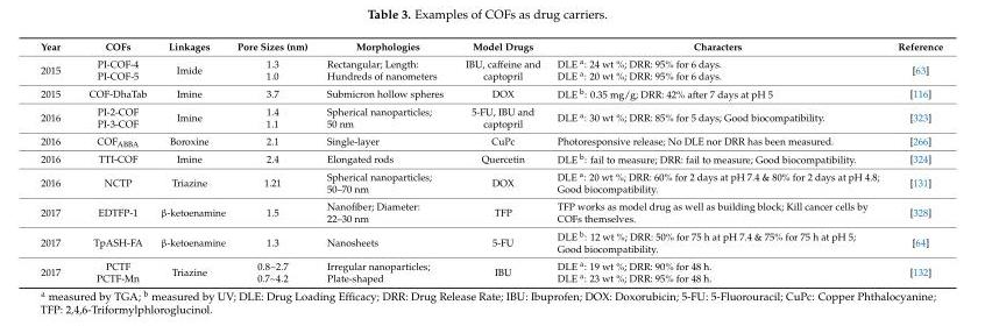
<table><thead><tr><td>Year</td><td>COFs</td><td>Linkages</td><td>Pore Sizes (nm)</td><td>Morphologies</td><td>Model Drugs</td><td>Characters</td><td>Reference</td></tr></thead><tbody><tr><td>2015</td><td>PI-COF-4 PI-COF-5</td><td>Imide</td><td>1.3 1.0</td><td>Rectangular; Length: Hundreds of nanometers</td><td>IBU, caffeine and captopril</td><td>DLE a: 24 wt %; DRR: 95% for 6 days. DLE a: 20 wt %; DRR: 95% for 6 days.</td><td>[63]</td></tr><tr><td>2015</td><td>COF-DhaTab</td><td>Imine</td><td>3.7</td><td>Submicron hollow spheres</td><td>DOX</td><td>DLE b: 0.35 mg/g; DRR: 42% after 7 days at pH 5</td><td>[116]</td></tr><tr><td>2016</td><td>PI-2-COF PI-3-COF</td><td>Imine</td><td>1.4 1.1</td><td>Spherical nanoparticles; 50 nm</td><td>5-FU, IBU and captopril</td><td>DLE a: 30 wt %; DRR: 85% for 5 days; Good biocompatibility.</td><td>[323]</td></tr><tr><td>2016</td><td>COFABBA</td><td>Boroxine</td><td>2.1</td><td>Single-layer</td><td>CuPc</td><td>Photoresponsive release; No DLE nor DRR has been measured.</td><td>[266]</td></tr><tr><td>2016</td><td>TTI-COF</td><td>Imine</td><td>2.4</td><td>Elongated rods</td><td>Quercetin</td><td>DLE b: fail to measure; DRR: fail to measure; Good biocompatibility.</td><td>[324]</td></tr><tr><td>2016</td><td>NCTP</td><td>Triazine</td><td>1.21</td><td>Spherical nanoparticles; 50–70 nm</td><td>DOX</td><td>DLE a: 20 wt %; DRR: 60% for 2 days at pH 7.4 &amp; 80% for 2 days at pH 4.8; Good biocompatibility.</td><td>[131]</td></tr><tr><td>2017</td><td>EDTFP-1</td><td>β-ketoenamine</td><td>1.5</td><td>Nanofiber; Diameter: 22–30 nm</td><td>TFP</td><td>TFP works as model drug as well as building block; Kill cancer cells by COFs themselves.</td><td>[328]</td></tr><tr><td>2017</td><td>TpASH-FA</td><td>β-ketoenamine</td><td>1.3</td><td>Nanosheets</td><td>5-FU</td><td>DLE b: 12 wt %; DRR: 50% for 75 h at pH 7.4 &amp; 75% for 75 h at pH 5; Good biocompatibility.</td><td>[64]</td></tr><tr><td>2017</td><td>PCTF PCTF-Mn</td><td>Triazine</td><td>0.8~2.7 0.7~4.2</td><td>Irregular nanoparticles; Plate-shaped</td><td>IBU</td><td>DLE a: 19 wt %; DRR: 90% for 48 h. DLE a: 23 wt %; DRR: 95% for 48 h.</td><td>[132]</td></tr></tbody></table>